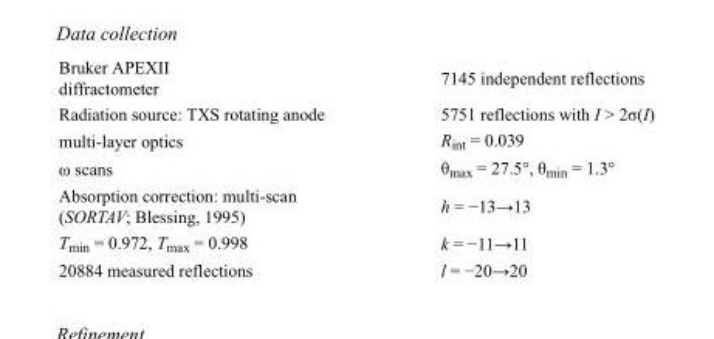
<table><tbody><tr><td>Bruker APEXII diffractometer</td><td>7145 independent reflections</td></tr><tr><td>Radiation source: TXS rotating anode</td><td>5751 reflections with I &gt; 2σ(I)</td></tr><tr><td>multi-layer optics</td><td>R<sub>int</sub> = 0.039</td></tr><tr><td>ω scans</td><td>θ<sub>max</sub> = 27.5°, θ<sub>min</sub> = 1.3°</td></tr><tr><td>Absorption correction: multi-scan (SORTAV; Blessing, 1995)</td><td>h = −13→13</td></tr><tr><td>T<sub>min</sub> = 0.972, T<sub>max</sub> = 0.998</td><td>k = −11→11</td></tr><tr><td>20884 measured reflections</td><td>l = −20→20</td></tr></tbody></table>